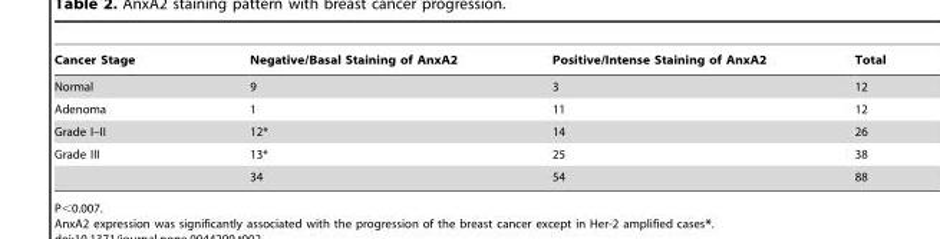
<table><thead><tr><td>Cancer Stage</td><td>Negative/Basal Staining of AnxA2</td><td>Positive/Intense Staining of AnxA2</td><td>Total</td></tr></thead><tbody><tr><td>Normal</td><td>9</td><td>3</td><td>12</td></tr><tr><td>Adenoma</td><td>1</td><td>11</td><td>12</td></tr><tr><td>Grade I–II</td><td>12*</td><td>14</td><td>26</td></tr><tr><td rowspan="2">Grade III</td><td>13*</td><td>25</td><td>38</td></tr><tr><td>34</td><td>54</td><td>88</td></tr></tbody></table>